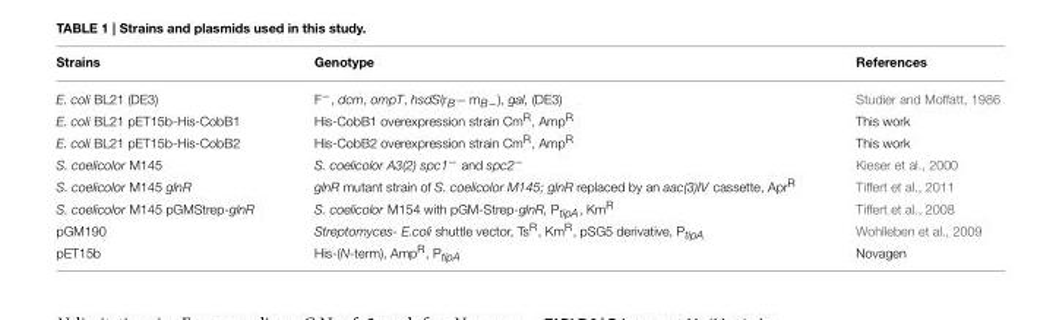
<table><thead><tr><td>Strains</td><td>Genotype</td><td>References</td></tr></thead><tbody><tr><td>E. coli BL21 (DE3)</td><td>F<sup>−</sup>, dcm, ompT, hsdS(r<sub>B</sub>− m<sub>B−</sub>), gal, (DE3)</td><td>Studier and Moffatt, 1986</td></tr><tr><td>E. coli BL21 pET15b-His-CobB1</td><td>His-CobB1 overexpression strain Cm<sup>R</sup>, Amp<sup>R</sup></td><td>This work</td></tr><tr><td>E. coli BL21 pET15b-His-CobB2</td><td>His-CobB2 overexpression strain Cm<sup>R</sup>, Amp<sup>R</sup></td><td>This work</td></tr><tr><td>S. coelicolor M145</td><td>S. coelicolor A3(2) spc1<sup>−</sup> and spc2<sup>−</sup></td><td>Kieser et al., 2000</td></tr><tr><td>S. coelicolor M145 glnR</td><td>glnR mutant strain of S. coelicolor M145; glnR replaced by an aac(3)IV cassette, Apr<sup>R</sup></td><td>Tiffert et al., 2011</td></tr><tr><td>S. coelicolor M145 pGMStrep-glnR</td><td>S. coelicolor M154 with pGM-Strep-glnR, P<sub>tipA</sub>, Km<sup>R</sup></td><td>Tiffert et al., 2008</td></tr><tr><td>pGM190</td><td>Streptomyces- E.coli shuttle vector, Ts<sup>R</sup>, Km<sup>R</sup>, pSG5 derivative, P<sub>tipA</sub></td><td>Wohlleben et al., 2009</td></tr><tr><td>pET15b</td><td>His-(N-term), Amp<sup>R</sup>, P<sub>tipA</sub></td><td>Novagen</td></tr></tbody></table>